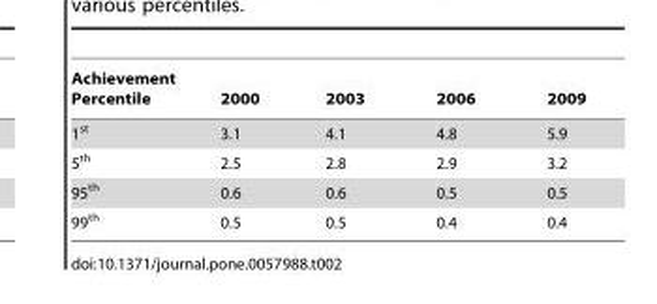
<table><thead><tr><td>Achievement Percentile</td><td>2000</td><td>2003</td><td>2006</td><td>2009</td></tr></thead><tbody><tr><td>1<sup>st</sup></td><td>3.1</td><td>4.1</td><td>4.8</td><td>5.9</td></tr><tr><td>5<sup>th</sup></td><td>2.5</td><td>2.8</td><td>2.9</td><td>3.2</td></tr><tr><td>95<sup>th</sup></td><td>0.6</td><td>0.6</td><td>0.5</td><td>0.5</td></tr><tr><td>99<sup>th</sup></td><td>0.5</td><td>0.5</td><td>0.4</td><td>0.4</td></tr></tbody></table>